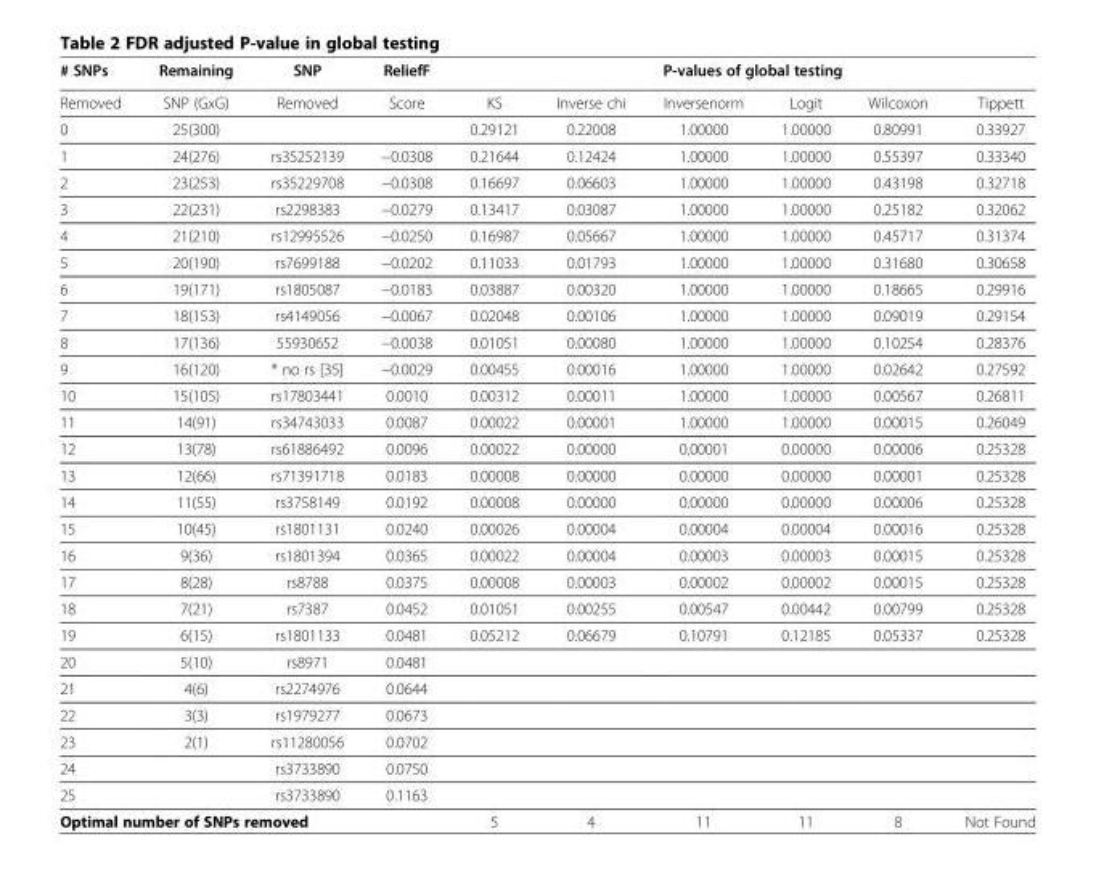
<table><thead><tr><td rowspan="2"># SNPs Removed</td><td rowspan="2">Remaining SNP (GxG)</td><td rowspan="2">SNP Removed</td><td rowspan="2">ReliefF Score</td><td colspan="6">P-values of global testing</td></tr><tr><td>KS</td><td>Inverse chi</td><td>Inversenorm</td><td>Logit</td><td>Wilcoxon</td><td>Tippett</td></tr></thead><tbody><tr><td>0</td><td>25(300)</td><td></td><td></td><td>0.29121</td><td>0.22008</td><td>1.00000</td><td>1.00000</td><td>0.80991</td><td>0.33927</td></tr><tr><td>1</td><td>24(276)</td><td>rs35252139</td><td>−0.0308</td><td>0.21644</td><td>0.12424</td><td>1.00000</td><td>1.00000</td><td>0.55397</td><td>0.33340</td></tr><tr><td>2</td><td>23(253)</td><td>rs35229708</td><td>−0.0308</td><td>0.16697</td><td>0.06603</td><td>1.00000</td><td>1.00000</td><td>0.43198</td><td>0.32718</td></tr><tr><td>3</td><td>22(231)</td><td>rs2298383</td><td>−0.0279</td><td>0.13417</td><td>0.03087</td><td>1.00000</td><td>1.00000</td><td>0.25182</td><td>0.32062</td></tr><tr><td>4</td><td>21(210)</td><td>rs12995526</td><td>−0.0250</td><td>0.16987</td><td>0.05667</td><td>1.00000</td><td>1.00000</td><td>0.45717</td><td>0.31374</td></tr><tr><td>5</td><td>20(190)</td><td>rs7699188</td><td>−0.0202</td><td>0.11033</td><td>0.01793</td><td>1.00000</td><td>1.00000</td><td>0.31680</td><td>0.30658</td></tr><tr><td>6</td><td>19(171)</td><td>rs1805087</td><td>−0.0183</td><td>0.03887</td><td>0.00320</td><td>1.00000</td><td>1.00000</td><td>0.18665</td><td>0.29916</td></tr><tr><td>7</td><td>18(153)</td><td>rs4149056</td><td>−0.0067</td><td>0.02048</td><td>0.00106</td><td>1.00000</td><td>1.00000</td><td>0.09019</td><td>0.29154</td></tr><tr><td>8</td><td>17(136)</td><td>55930652</td><td>−0.0038</td><td>0.01051</td><td>0.00080</td><td>1.00000</td><td>1.00000</td><td>0.10254</td><td>0.28376</td></tr><tr><td>9</td><td>16(120)</td><td>* no rs [35]</td><td>−0.0029</td><td>0.00455</td><td>0.00016</td><td>1.00000</td><td>1.00000</td><td>0.02642</td><td>0.27592</td></tr><tr><td>10</td><td>15(105)</td><td>rs17803441</td><td>0.0010</td><td>0.00312</td><td>0.00011</td><td>1.00000</td><td>1.00000</td><td>0.00567</td><td>0.26811</td></tr><tr><td>11</td><td>14(91)</td><td>rs34743033</td><td>0.0087</td><td>0.00022</td><td>0.00001</td><td>1.00000</td><td>1.00000</td><td>0.00015</td><td>0.26049</td></tr><tr><td>12</td><td>13(78)</td><td>rs61886492</td><td>0.0096</td><td>0.00022</td><td>0.00000</td><td>0.00001</td><td>0.00000</td><td>0.00006</td><td>0.25328</td></tr><tr><td>13</td><td>12(66)</td><td>rs71391718</td><td>0.0183</td><td>0.00008</td><td>0.00000</td><td>0.00000</td><td>0.00000</td><td>0.00001</td><td>0.25328</td></tr><tr><td>14</td><td>11(55)</td><td>rs3758149</td><td>0.0192</td><td>0.00008</td><td>0.00000</td><td>0.00000</td><td>0.00000</td><td>0.00006</td><td>0.25328</td></tr><tr><td>15</td><td>10(45)</td><td>rs1801131</td><td>0.0240</td><td>0.00026</td><td>0.00004</td><td>0.00004</td><td>0.00004</td><td>0.00016</td><td>0.25328</td></tr><tr><td>16</td><td>9(36)</td><td>rs1801394</td><td>0.0365</td><td>0.00022</td><td>0.00004</td><td>0.00003</td><td>0.00003</td><td>0.00015</td><td>0.25328</td></tr><tr><td>17</td><td>8(28)</td><td>rs8788</td><td>0.0375</td><td>0.00008</td><td>0.00003</td><td>0.00002</td><td>0.00002</td><td>0.00015</td><td>0.25328</td></tr><tr><td>18</td><td>7(21)</td><td>rs7387</td><td>0.0452</td><td>0.01051</td><td>0.00255</td><td>0.00547</td><td>0.00442</td><td>0.00799</td><td>0.25328</td></tr><tr><td>19</td><td>6(15)</td><td>rs1801133</td><td>0.0481</td><td>0.05212</td><td>0.06679</td><td>0.10791</td><td>0.12185</td><td>0.05337</td><td>0.25328</td></tr><tr><td>20</td><td>5(10)</td><td>rs8971</td><td>0.0481</td><td></td><td></td><td></td><td></td><td></td><td></td></tr><tr><td>21</td><td>4(6)</td><td>rs2274976</td><td>0.0644</td><td></td><td></td><td></td><td></td><td></td><td></td></tr><tr><td>22</td><td>3(3)</td><td>rs1979277</td><td>0.0673</td><td></td><td></td><td></td><td></td><td></td><td></td></tr><tr><td>23</td><td>2(1)</td><td>rs11280056</td><td>0.0702</td><td></td><td></td><td></td><td></td><td></td><td></td></tr><tr><td>24</td><td></td><td>rs3733890</td><td>0.0750</td><td></td><td></td><td></td><td></td><td></td><td></td></tr><tr><td>25</td><td></td><td>rs3733890</td><td>0.1163</td><td></td><td></td><td></td><td></td><td></td><td></td></tr><tr><td colspan="4">Optimal number of SNPs removed</td><td>5</td><td>4</td><td>11</td><td>11</td><td>8</td><td>Not Found</td></tr></tbody></table>